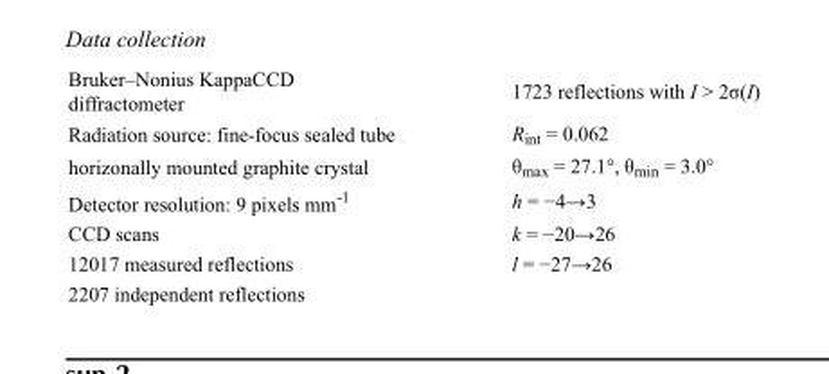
<table><tbody><tr><td>Bruker–Nonius KappaCCD diffractometer</td><td>1723 reflections with I &gt; 2σ(I)</td></tr><tr><td>Radiation source: fine-focus sealed tube</td><td>R<sub>int</sub> = 0.062</td></tr><tr><td>horizonally mounted graphite crystal</td><td>θ<sub>max</sub> = 27.1°, θ<sub>min</sub> = 3.0°</td></tr><tr><td>Detector resolution: 9 pixels mm<sup>-1</sup></td><td>h = −4→3</td></tr><tr><td>CCD scans</td><td>k = −20→26</td></tr><tr><td>12017 measured reflections</td><td>l = −27→26</td></tr><tr><td>2207 independent reflections</td><td></td></tr></tbody></table>